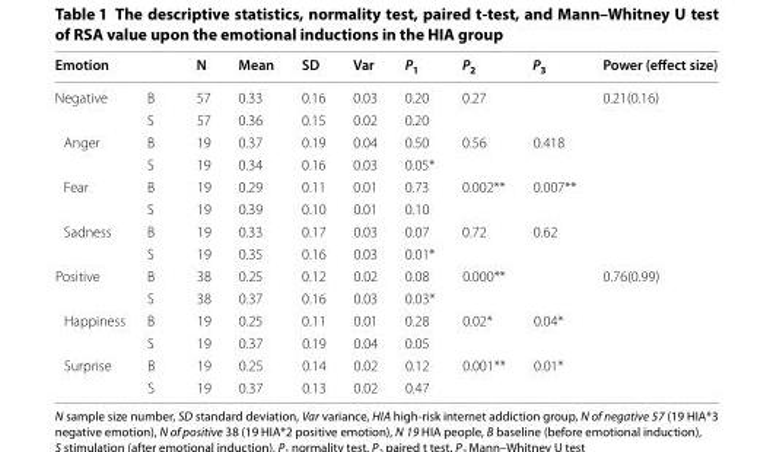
<table><thead><tr><td>Emotion</td><td></td><td>N</td><td>Mean</td><td>SD</td><td>Var</td><td>P<sub>1</sub></td><td>P<sub>2</sub></td><td>P<sub>3</sub></td><td>Power (effect size)</td></tr></thead><tbody><tr><td rowspan="2">Negative</td><td>B</td><td>57</td><td>0.33</td><td>0.16</td><td>0.03</td><td>0.20</td><td>0.27</td><td></td><td rowspan="8">0.21(0.16)</td></tr><tr><td>S</td><td>57</td><td>0.36</td><td>0.15</td><td>0.02</td><td>0.20</td><td></td><td></td></tr><tr><td rowspan="2">Anger</td><td>B</td><td>19</td><td>0.37</td><td>0.19</td><td>0.04</td><td>0.50</td><td>0.56</td><td>0.418</td></tr><tr><td>S</td><td>19</td><td>0.34</td><td>0.16</td><td>0.03</td><td>0.05*</td><td></td><td></td></tr><tr><td rowspan="2">Fear</td><td>B</td><td>19</td><td>0.29</td><td>0.11</td><td>0.01</td><td>0.73</td><td>0.002**</td><td>0.007**</td></tr><tr><td>S</td><td>19</td><td>0.39</td><td>0.10</td><td>0.01</td><td>0.10</td><td></td><td></td></tr><tr><td rowspan="2">Sadness</td><td>B</td><td>19</td><td>0.33</td><td>0.17</td><td>0.03</td><td>0.07</td><td>0.72</td><td>0.62</td></tr><tr><td>S</td><td>19</td><td>0.35</td><td>0.16</td><td>0.03</td><td>0.01*</td><td></td><td></td></tr><tr><td rowspan="2">Positive</td><td>B</td><td>38</td><td>0.25</td><td>0.12</td><td>0.02</td><td>0.08</td><td>0.000**</td><td></td><td rowspan="6">0.76(0.99)</td></tr><tr><td>S</td><td>38</td><td>0.37</td><td>0.16</td><td>0.03</td><td>0.03*</td><td></td><td></td></tr><tr><td rowspan="2">Happiness</td><td>B</td><td>19</td><td>0.25</td><td>0.11</td><td>0.01</td><td>0.28</td><td>0.02*</td><td>0.04*</td></tr><tr><td>S</td><td>19</td><td>0.37</td><td>0.19</td><td>0.04</td><td>0.05</td><td></td><td></td></tr><tr><td rowspan="2">Surprise</td><td>B</td><td>19</td><td>0.25</td><td>0.14</td><td>0.02</td><td>0.12</td><td>0.001**</td><td>0.01*</td></tr><tr><td>S</td><td>19</td><td>0.37</td><td>0.13</td><td>0.02</td><td>0.47</td><td></td><td></td></tr></tbody></table>